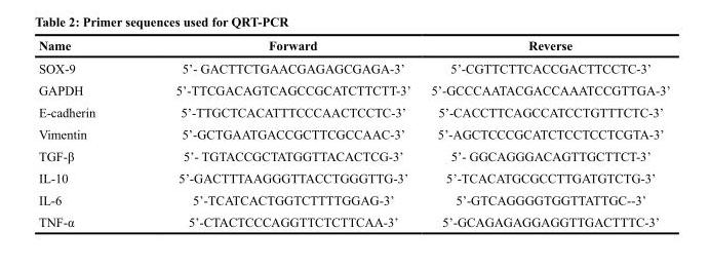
<table><thead><tr><td>Name</td><td>Forward</td><td>Reverse</td></tr></thead><tbody><tr><td>SOX-9</td><td>5’- GACTTCTGAACGAGAGCGAGA-3’</td><td>5’-CGTTCTTCACCGACTTCCTC-3’</td></tr><tr><td>GAPDH</td><td>5’-TTCGACAGTCAGCCGCATCTTCTT-3’</td><td>5’-GCCCAATACGACCAAATCCGTTGA-3’</td></tr><tr><td>E-cadherin</td><td>5’-TTGCTCACATTTCCCAACTCCTC-3’</td><td>5’-CACCTTCAGCCATCCTGTTTCTC-3’</td></tr><tr><td>Vimentin</td><td>5’-GCTGAATGACCGCTTCGCCAAC-3’</td><td>5’-AGCTCCCGCATCTCCTCCTCGTA-3’</td></tr><tr><td>TGF-β</td><td>5’- TGTACCGCTATGGTTACACTCG-3’</td><td>5’- GGCAGGGACAGTTGCTTCT-3’</td></tr><tr><td>IL-10</td><td>5’-GACTTTAAGGGTTACCTGGGTTG-3’</td><td>5’-TCACATGCGCCTTGATGTCTG-3’</td></tr><tr><td>IL-6</td><td>5’-TCATCACTGGTCTTTTGGAG-3’</td><td>5’-GTCAGGGGTGGTTATTGC--3’</td></tr><tr><td>TNF-α</td><td>5’-CTACTCCCAGGTTCTCTTCAA-3’</td><td>5’-GCAGAGAGGAGGTTGACTTTC-3’</td></tr></tbody></table>